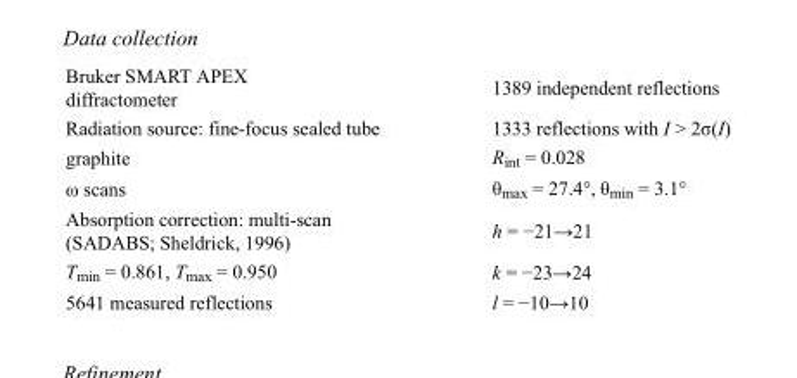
<table><tbody><tr><td>Bruker SMART APEX diffractometer</td><td>1389 independent reflections</td></tr><tr><td>Radiation source: fine-focus sealed tube</td><td>1333 reflections with I &gt; 2σ(I)</td></tr><tr><td>graphite</td><td>R<sub>int</sub> = 0.028</td></tr><tr><td>ω scans</td><td>θ<sub>max</sub> = 27.4°, θ<sub>min</sub> = 3.1°</td></tr><tr><td>Absorption correction: multi-scan (SADABS; Sheldrick, 1996)</td><td>h = −21→21</td></tr><tr><td>T<sub>min</sub> = 0.861, T<sub>max</sub> = 0.950</td><td>k = −23→24</td></tr><tr><td>5641 measured reflections</td><td>l = −10→10</td></tr></tbody></table>